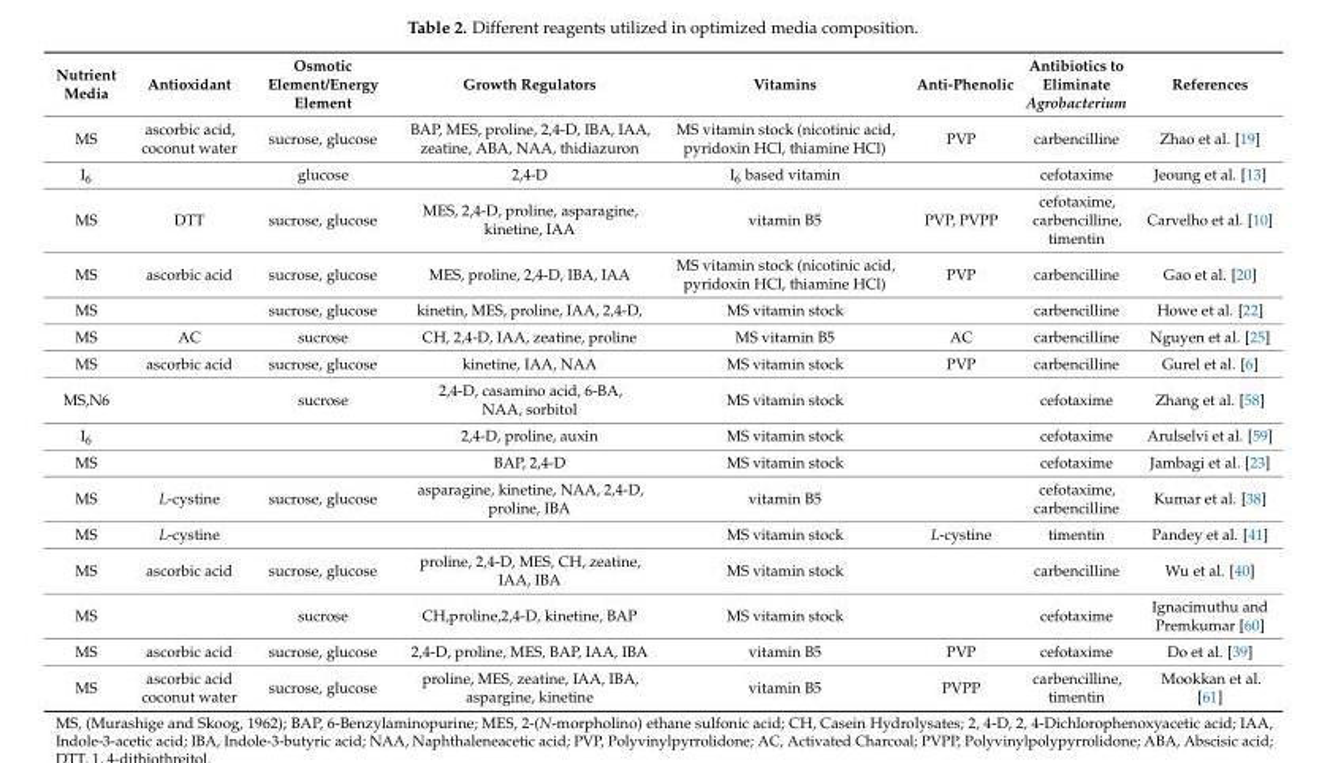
<table><thead><tr><td>Nutrient Media</td><td>Antioxidant</td><td>Osmotic Element/Energy Element</td><td>Growth Regulators</td><td>Vitamins</td><td>Anti-Phenolic</td><td>Antibiotics to Eliminate Agrobacterium</td><td>References</td></tr></thead><tbody><tr><td>MS</td><td>ascorbic acid, coconut water</td><td>sucrose, glucose</td><td>BAP, MES, proline, 2,4-D, IBA, IAA, zeatine, ABA, NAA, thidiazuron</td><td>MS vitamin stock (nicotinic acid, pyridoxin HCl, thiamine HCl)</td><td>PVP</td><td>carbencilline</td><td>Zhao et al. [19]</td></tr><tr><td>I<sub>6</sub></td><td></td><td>glucose</td><td>2,4-D</td><td>I<sub>6</sub> based vitamin</td><td></td><td>cefotaxime</td><td>Jeoung et al. [13]</td></tr><tr><td>MS</td><td>DTT</td><td>sucrose, glucose</td><td>MES, 2,4-D, proline, asparagine, kinetine, IAA</td><td>vitamin B5</td><td>PVP, PVPP</td><td>cefotaxime, carbencilline, timentin</td><td>Carvelho et al. [10]</td></tr><tr><td>MS</td><td>ascorbic acid</td><td>sucrose, glucose</td><td>MES, proline, 2,4-D, IBA, IAA</td><td>MS vitamin stock (nicotinic acid, pyridoxin HCl, thiamine HCl)</td><td>PVP</td><td>carbencilline</td><td>Gao et al. [20]</td></tr><tr><td>MS</td><td></td><td>sucrose, glucose</td><td>kinetin, MES, proline, IAA, 2,4-D,</td><td>MS vitamin stock</td><td></td><td>carbencilline</td><td>Howe et al. [22]</td></tr><tr><td>MS</td><td>AC</td><td>sucrose</td><td>CH, 2,4-D, IAA, zeatine, proline</td><td>MS vitamin B5</td><td>AC</td><td>carbencilline</td><td>Nguyen et al. [25]</td></tr><tr><td>MS</td><td>ascorbic acid</td><td>sucrose, glucose</td><td>kinetine, IAA, NAA</td><td>MS vitamin stock</td><td>PVP</td><td>carbencilline</td><td>Gurel et al. [6]</td></tr><tr><td>MS,N6</td><td></td><td>sucrose</td><td>2,4-D, casamino acid, 6-BA, NAA, sorbitol</td><td>MS vitamin stock</td><td></td><td>cefotaxime</td><td>Zhang et al. [58]</td></tr><tr><td>I<sub>6</sub></td><td></td><td></td><td>2,4-D, proline, auxin</td><td>MS vitamin stock</td><td></td><td>cefotaxime</td><td>Arulselvi et al. [59]</td></tr><tr><td>MS</td><td></td><td></td><td>BAP, 2,4-D</td><td>MS vitamin stock</td><td></td><td>cefotaxime</td><td>Jambagi et al. [23]</td></tr><tr><td>MS</td><td>L-cystine</td><td>sucrose, glucose</td><td>asparagine, kinetine, NAA, 2,4-D, proline, IBA</td><td>vitamin B5</td><td></td><td>cefotaxime, carbencilline</td><td>Kumar et al. [38]</td></tr><tr><td>MS</td><td>L-cystine</td><td></td><td></td><td>MS vitamin stock</td><td>L-cystine</td><td>timentin</td><td>Pandey et al. [41]</td></tr><tr><td>MS</td><td>ascorbic acid</td><td>sucrose, glucose</td><td>proline, 2,4-D, MES, CH, zeatine, IAA, IBA</td><td>MS vitamin stock</td><td></td><td>carbencilline</td><td>Wu et al. [40]</td></tr><tr><td>MS</td><td></td><td>sucrose</td><td>CH,proline,2,4-D, kinetine, BAP</td><td>MS vitamin stock</td><td></td><td>cefotaxime</td><td>Ignacimuthu and Premkumar [60]</td></tr><tr><td>MS</td><td>ascorbic acid</td><td>sucrose, glucose</td><td>2,4-D, proline, MES, BAP, IAA, IBA</td><td>vitamin B5</td><td>PVP</td><td>cefotaxime</td><td>Do et al. [39]</td></tr><tr><td>MS</td><td>ascorbic acid coconut water</td><td>sucrose, glucose</td><td>proline, MES, zeatine, IAA, IBA, aspargine, kinetine</td><td>vitamin B5</td><td>PVPP</td><td>carbencilline, timentin</td><td>Mookkan et al. [61]</td></tr></tbody></table>